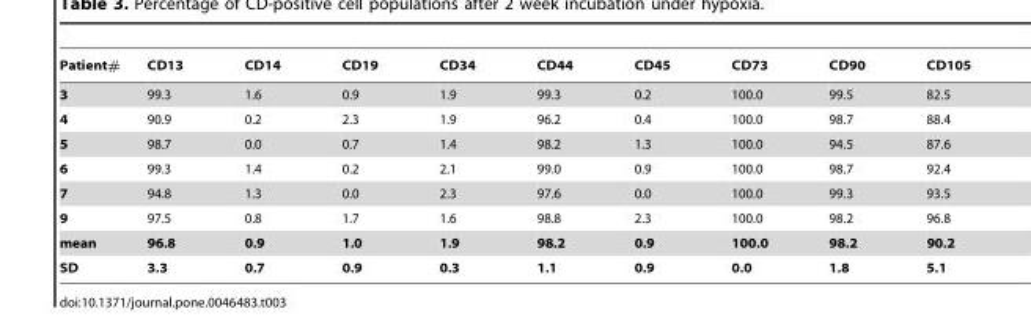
<table><thead><tr><td>Patient#</td><td>CD13</td><td>CD14</td><td>CD19</td><td>CD34</td><td>CD44</td><td>CD45</td><td>CD73</td><td>CD90</td><td>CD105</td></tr></thead><tbody><tr><td>3</td><td>99.3</td><td>1.6</td><td>0.9</td><td>1.9</td><td>99.3</td><td>0.2</td><td>100.0</td><td>99.5</td><td>82.5</td></tr><tr><td>4</td><td>90.9</td><td>0.2</td><td>2.3</td><td>1.9</td><td>96.2</td><td>0.4</td><td>100.0</td><td>98.7</td><td>88.4</td></tr><tr><td>5</td><td>98.7</td><td>0.0</td><td>0.7</td><td>1.4</td><td>98.2</td><td>1.3</td><td>100.0</td><td>94.5</td><td>87.6</td></tr><tr><td>6</td><td>99.3</td><td>1.4</td><td>0.2</td><td>2.1</td><td>99.0</td><td>0.9</td><td>100.0</td><td>98.7</td><td>92.4</td></tr><tr><td>7</td><td>94.8</td><td>1.3</td><td>0.0</td><td>2.3</td><td>97.6</td><td>0.0</td><td>100.0</td><td>99.3</td><td>93.5</td></tr><tr><td>9</td><td>97.5</td><td>0.8</td><td>1.7</td><td>1.6</td><td>98.8</td><td>2.3</td><td>100.0</td><td>98.2</td><td>96.8</td></tr><tr><td>mean</td><td>96.8</td><td>0.9</td><td>1.0</td><td>1.9</td><td>98.2</td><td>0.9</td><td>100.0</td><td>98.2</td><td>90.2</td></tr><tr><td>SD</td><td>3.3</td><td>0.7</td><td>0.9</td><td>0.3</td><td>1.1</td><td>0.9</td><td>0.0</td><td>1.8</td><td>5.1</td></tr></tbody></table>